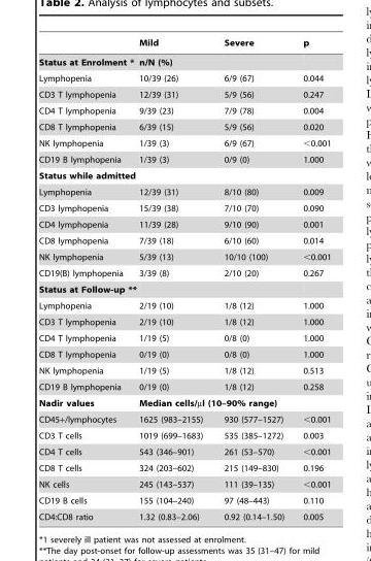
<table><thead><tr><td></td><td>Mild</td><td>Severe</td><td>p</td></tr></thead><tbody><tr><td>Status at Enrolment *</td><td colspan="2">n/N (%)</td><td></td></tr><tr><td>Lymphopenia</td><td>10/39 (26)</td><td>6/9 (67)</td><td>0.044</td></tr><tr><td>CD3 T lymphopenia</td><td>12/39 (31)</td><td>5/9 (56)</td><td>0.247</td></tr><tr><td>CD4 T lymphopenia</td><td>9/39 (23)</td><td>7/9 (78)</td><td>0.004</td></tr><tr><td>CD8 T lymphopenia</td><td>6/39 (15)</td><td>5/9 (56)</td><td>0.020</td></tr><tr><td>NK lymphopenia</td><td>1/39 (3)</td><td>6/9 (67)</td><td>&lt;0.001</td></tr><tr><td>CD19 B lymphopenia</td><td>1/39 (3)</td><td>0/9 (0)</td><td>1.000</td></tr><tr><td colspan="4">Status while admitted</td></tr><tr><td>Lymphopenia</td><td>12/39 (31)</td><td>8/10 (80)</td><td>0.009</td></tr><tr><td>CD3 lymphopenia</td><td>15/39 (38)</td><td>7/10 (70)</td><td>0.090</td></tr><tr><td>CD4 lymphopenia</td><td>11/39 (28)</td><td>9/10 (90)</td><td>0.001</td></tr><tr><td>CD8 lymphopenia</td><td>7/39 (18)</td><td>6/10 (60)</td><td>0.014</td></tr><tr><td>NK lymphopenia</td><td>5/39 (13)</td><td>10/10 (100)</td><td>&lt;0.001</td></tr><tr><td>CD19(B) lymphopenia</td><td>3/39 (8)</td><td>2/10 (20)</td><td>0.267</td></tr><tr><td colspan="4">Status at Follow-up **</td></tr><tr><td>Lymphopenia</td><td>2/19 (10)</td><td>1/8 (12)</td><td>1.000</td></tr><tr><td>CD3 T lymphopenia</td><td>2/19 (10)</td><td>1/8 (12)</td><td>1.000</td></tr><tr><td>CD4 T lymphopenia</td><td>1/19 (5)</td><td>0/8 (0)</td><td>1.000</td></tr><tr><td>CD8 T lymphopenia</td><td>0/19 (0)</td><td>0/8 (0)</td><td>1.000</td></tr><tr><td>NK lymphopenia</td><td>1/19 (5)</td><td>1/8 (12)</td><td>0.513</td></tr><tr><td>CD19 B lymphopenia</td><td>0/19 (0)</td><td>1/8 (12)</td><td>0.258</td></tr><tr><td>Nadir values</td><td colspan="2">Median cells/µl (10–90% range)</td><td></td></tr><tr><td>CD45+/lymphocytes</td><td>1625 (983–2155)</td><td>930 (577–1527)</td><td>&lt;0.001</td></tr><tr><td>CD3 T cells</td><td>1019 (699–1683)</td><td>535 (385–1272)</td><td>0.003</td></tr><tr><td>CD4 T cells</td><td>543 (346–901)</td><td>261 (53–570)</td><td>&lt;0.001</td></tr><tr><td>CD8 T cells</td><td>324 (203–602)</td><td>215 (149–830)</td><td>0.196</td></tr><tr><td>NK cells</td><td>245 (143–537)</td><td>111 (39–135)</td><td>&lt;0.001</td></tr><tr><td>CD19 B cells</td><td>155 (104–240)</td><td>97 (48–443)</td><td>0.110</td></tr><tr><td>CD4:CD8 ratio</td><td>1.32 (0.83–2.06)</td><td>0.92 (0.14–1.50)</td><td>0.005</td></tr></tbody></table>